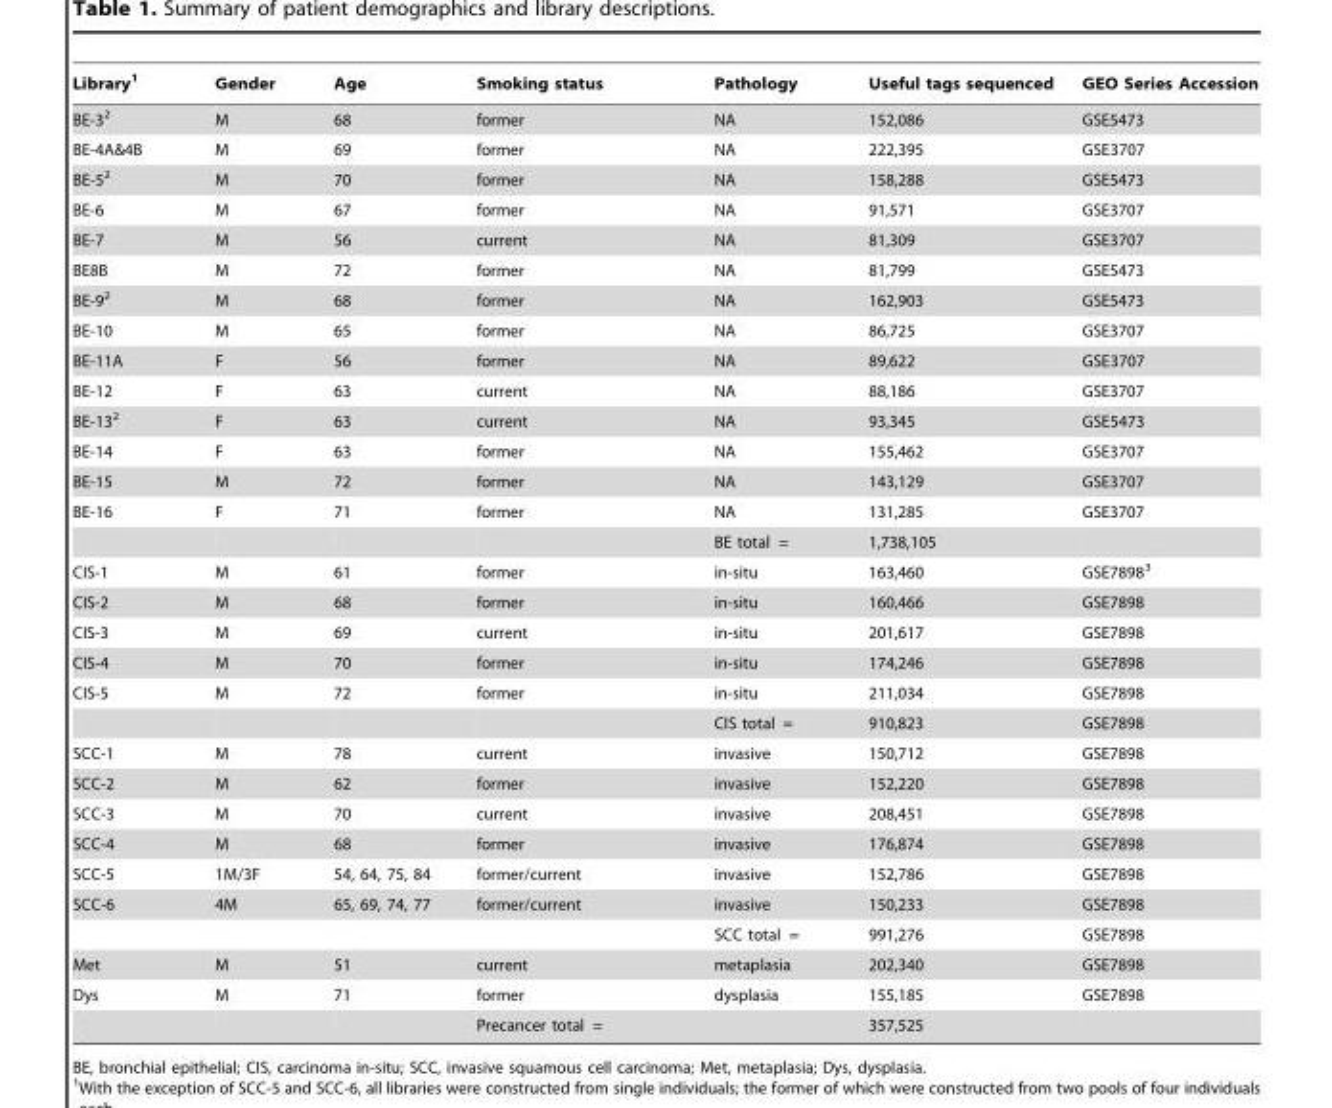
<table><thead><tr><td>Library<sup>1</sup></td><td>Gender</td><td>Age</td><td>Smoking status</td><td>Pathology</td><td>Useful tags sequenced</td><td>GEO Series Accession</td></tr></thead><tbody><tr><td>BE-3<sup>2</sup></td><td>M</td><td>68</td><td>former</td><td>NA</td><td>152,086</td><td>GSE5473</td></tr><tr><td>BE-4A&amp;4B</td><td>M</td><td>69</td><td>former</td><td>NA</td><td>222,395</td><td>GSE3707</td></tr><tr><td>BE-5<sup>2</sup></td><td>M</td><td>70</td><td>former</td><td>NA</td><td>158,288</td><td>GSE5473</td></tr><tr><td>BE-6</td><td>M</td><td>67</td><td>former</td><td>NA</td><td>91,571</td><td>GSE3707</td></tr><tr><td>BE-7</td><td>M</td><td>56</td><td>current</td><td>NA</td><td>81,309</td><td>GSE3707</td></tr><tr><td>BE8B</td><td>M</td><td>72</td><td>former</td><td>NA</td><td>81,799</td><td>GSE5473</td></tr><tr><td>BE-9<sup>2</sup></td><td>M</td><td>68</td><td>former</td><td>NA</td><td>162,903</td><td>GSE5473</td></tr><tr><td>BE-10</td><td>M</td><td>65</td><td>former</td><td>NA</td><td>86,725</td><td>GSE3707</td></tr><tr><td>BE-11A</td><td>F</td><td>56</td><td>former</td><td>NA</td><td>89,622</td><td>GSE3707</td></tr><tr><td>BE-12</td><td>F</td><td>63</td><td>current</td><td>NA</td><td>88,186</td><td>GSE3707</td></tr><tr><td>BE-13<sup>2</sup></td><td>F</td><td>63</td><td>current</td><td>NA</td><td>93,345</td><td>GSE5473</td></tr><tr><td>BE-14</td><td>F</td><td>63</td><td>former</td><td>NA</td><td>155,462</td><td>GSE3707</td></tr><tr><td>BE-15</td><td>M</td><td>72</td><td>former</td><td>NA</td><td>143,129</td><td>GSE3707</td></tr><tr><td rowspan="2">BE-16</td><td>F</td><td>71</td><td>former</td><td>NA</td><td>131,285</td><td>GSE3707</td></tr><tr><td></td><td></td><td></td><td>BE total =</td><td>1,738,105</td><td></td></tr><tr><td>CIS-1</td><td>M</td><td>61</td><td>former</td><td>in-situ</td><td>163,460</td><td>GSE7898<sup>3</sup></td></tr><tr><td>CIS-2</td><td>M</td><td>68</td><td>former</td><td>in-situ</td><td>160,466</td><td>GSE7898</td></tr><tr><td>CIS-3</td><td>M</td><td>69</td><td>current</td><td>in-situ</td><td>201,617</td><td>GSE7898</td></tr><tr><td>CIS-4</td><td>M</td><td>70</td><td>former</td><td>in-situ</td><td>174,246</td><td>GSE7898</td></tr><tr><td rowspan="2">CIS-5</td><td>M</td><td>72</td><td>former</td><td>in-situ</td><td>211,034</td><td>GSE7898</td></tr><tr><td></td><td></td><td></td><td>CIS total =</td><td>910,823</td><td>GSE7898</td></tr><tr><td>SCC-1</td><td>M</td><td>78</td><td>current</td><td>invasive</td><td>150,712</td><td>GSE7898</td></tr><tr><td>SCC-2</td><td>M</td><td>62</td><td>former</td><td>invasive</td><td>152,220</td><td>GSE7898</td></tr><tr><td>SCC-3</td><td>M</td><td>70</td><td>current</td><td>invasive</td><td>208,451</td><td>GSE7898</td></tr><tr><td>SCC-4</td><td>M</td><td>68</td><td>former</td><td>invasive</td><td>176,874</td><td>GSE7898</td></tr><tr><td>SCC-5</td><td>1M/3F</td><td>54, 64, 75, 84</td><td>former/current</td><td>invasive</td><td>152,786</td><td>GSE7898</td></tr><tr><td rowspan="2">SCC-6</td><td>4M</td><td>65, 69, 74, 77</td><td>former/current</td><td>invasive</td><td>150,233</td><td>GSE7898</td></tr><tr><td></td><td></td><td></td><td>SCC total =</td><td>991,276</td><td>GSE7898</td></tr><tr><td>Met</td><td>M</td><td>51</td><td>current</td><td>metaplasia</td><td>202,340</td><td>GSE7898</td></tr><tr><td rowspan="2">Dys</td><td>M</td><td>71</td><td>former</td><td>dysplasia</td><td>155,185</td><td>GSE7898</td></tr><tr><td></td><td></td><td colspan="2">Precancer total =</td><td>357,525</td><td></td></tr></tbody></table>